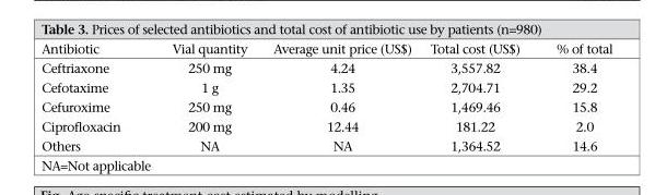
<table><thead><tr><td>Antibiotic</td><td>Vial quantity</td><td>Average unit price (US$)</td><td>Total cost (US$)</td><td>% of total</td></tr></thead><tbody><tr><td>Ceftriaxone</td><td>250 mg</td><td>4.24</td><td>3,557.82</td><td>38.4</td></tr><tr><td>Cefotaxime</td><td>1 g</td><td>1.35</td><td>2,704.71</td><td>29.2</td></tr><tr><td>Cefuroxime</td><td>250 mg</td><td>0.46</td><td>1,469.46</td><td>15.8</td></tr><tr><td>Ciprofloxacin</td><td>200 mg</td><td>12.44</td><td>181.22</td><td>2.0</td></tr><tr><td>Others</td><td>NA</td><td>NA</td><td>1,364.52</td><td>14.6</td></tr></tbody></table>